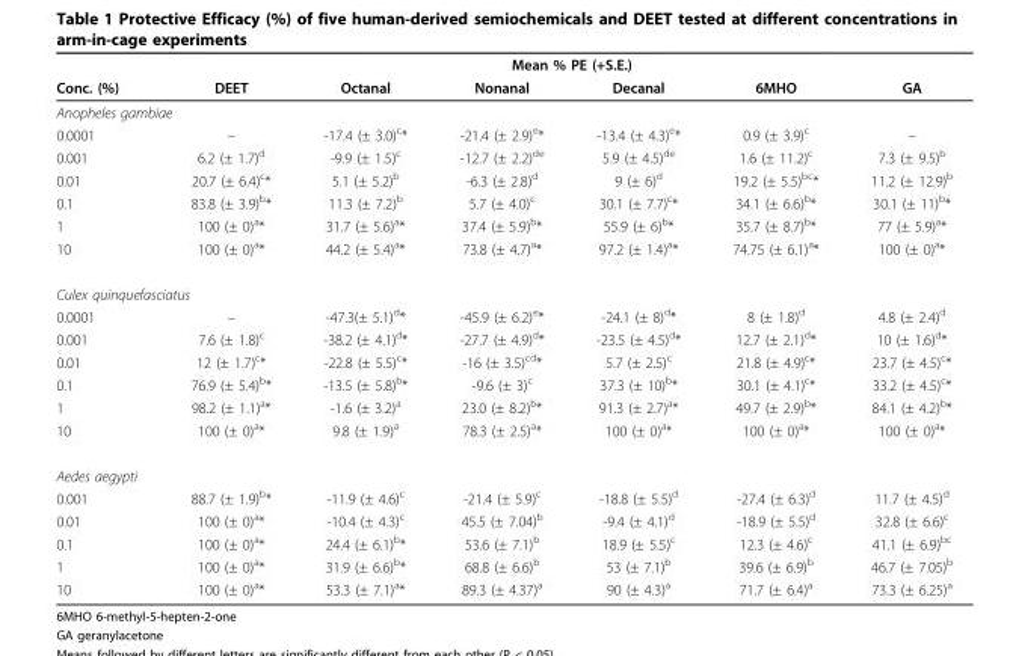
<table><thead><tr><td rowspan="2">Conc. (%)</td><td colspan="6">Mean % PE (+S.E.)</td></tr><tr><td>DEET</td><td>Octanal</td><td>Nonanal</td><td>Decanal</td><td>6MHO</td><td>GA</td></tr></thead><tbody><tr><td colspan="7">Anopheles gambiae</td></tr><tr><td>0.0001</td><td>–</td><td>-17.4 (± 3.0)<sup>c</sup>*</td><td>-21.4 (± 2.9)<sup>e</sup>*</td><td>-13.4 (± 4.3)<sup>e</sup>*</td><td>0.9 (± 3.9)<sup>c</sup></td><td>–</td></tr><tr><td>0.001</td><td>6.2 (± 1.7)<sup>d</sup></td><td>-9.9 (± 1.5)<sup>c</sup></td><td>-12.7 (± 2.2)<sup>de</sup></td><td>5.9 (± 4.5)<sup>de</sup></td><td>1.6 (± 11.2)<sup>c</sup></td><td>7.3 (± 9.5)<sup>b</sup></td></tr><tr><td>0.01</td><td>20.7 (± 6.4)<sup>c</sup>*</td><td>5.1 (± 5.2)<sup>b</sup></td><td>-6.3 (± 2.8)<sup>d</sup></td><td>9 (± 6)<sup>d</sup></td><td>19.2 (± 5.5)<sup>bc</sup>*</td><td>11.2 (± 12.9)<sup>b</sup></td></tr><tr><td>0.1</td><td>83.8 (± 3.9)<sup>b</sup>*</td><td>11.3 (± 7.2)<sup>b</sup></td><td>5.7 (± 4.0)<sup>c</sup></td><td>30.1 (± 7.7)<sup>c</sup>*</td><td>34.1 (± 6.6)<sup>b</sup>*</td><td>30.1 (± 11)<sup>b</sup>*</td></tr><tr><td>1</td><td>100 (± 0)<sup>a</sup>*</td><td>31.7 (± 5.6)<sup>a</sup>*</td><td>37.4 (± 5.9)<sup>b</sup>*</td><td>55.9 (± 6)<sup>b</sup>*</td><td>35.7 (± 8.7)<sup>b</sup>*</td><td>77 (± 5.9)<sup>a</sup>*</td></tr><tr><td>10</td><td>100 (± 0)<sup>a</sup>*</td><td>44.2 (± 5.4)<sup>a</sup>*</td><td>73.8 (± 4.7)<sup>a</sup>*</td><td>97.2 (± 1.4)<sup>a</sup>*</td><td>74.75 (± 6.1)<sup>a</sup>*</td><td>100 (± 0)<sup>a</sup>*</td></tr><tr><td colspan="7">Culex quinquefasciatus</td></tr><tr><td>0.0001</td><td>–</td><td>-47.3(± 5.1)<sup>d</sup>*</td><td>-45.9 (± 6.2)<sup>e</sup>*</td><td>-24.1 (± 8)<sup>d</sup>*</td><td>8 (± 1.8)<sup>d</sup></td><td>4.8 (± 2.4)<sup>d</sup></td></tr><tr><td>0.001</td><td>7.6 (± 1.8)<sup>c</sup></td><td>-38.2 (± 4.1)<sup>d</sup>*</td><td>-27.7 (± 4.9)<sup>d</sup>*</td><td>-23.5 (± 4.5)<sup>d</sup>*</td><td>12.7 (± 2.1)<sup>d</sup>*</td><td>10 (± 1.6)<sup>d</sup>*</td></tr><tr><td>0.01</td><td>12 (± 1.7)<sup>c</sup>*</td><td>-22.8 (± 5.5)<sup>c</sup>*</td><td>-16 (± 3.5)<sup>cd</sup>*</td><td>5.7 (± 2.5)<sup>c</sup></td><td>21.8 (± 4.9)<sup>c</sup>*</td><td>23.7 (± 4.5)<sup>c</sup>*</td></tr><tr><td>0.1</td><td>76.9 (± 5.4)<sup>b</sup>*</td><td>-13.5 (± 5.8)<sup>b</sup>*</td><td>-9.6 (± 3)<sup>c</sup></td><td>37.3 (± 10)<sup>b</sup>*</td><td>30.1 (± 4.1)<sup>c</sup>*</td><td>33.2 (± 4.5)<sup>c</sup>*</td></tr><tr><td>1</td><td>98.2 (± 1.1)<sup>a</sup>*</td><td>-1.6 (± 3.2)<sup>a</sup></td><td>23.0 (± 8.2)<sup>b</sup>*</td><td>91.3 (± 2.7)<sup>a</sup>*</td><td>49.7 (± 2.9)<sup>b</sup>*</td><td>84.1 (± 4.2)<sup>b</sup>*</td></tr><tr><td>10</td><td>100 (± 0)<sup>a</sup>*</td><td>9.8 (± 1.9)<sup>a</sup></td><td>78.3 (± 2.5)<sup>a</sup>*</td><td>100 (± 0)<sup>a</sup>*</td><td>100 (± 0)<sup>a</sup>*</td><td>100 (± 0)<sup>a</sup>*</td></tr><tr><td colspan="7">Aedes aegypti</td></tr><tr><td>0.001</td><td>88.7 (± 1.9)<sup>b</sup>*</td><td>-11.9 (± 4.6)<sup>c</sup></td><td>-21.4 (± 5.9)<sup>c</sup></td><td>-18.8 (± 5.5)<sup>d</sup></td><td>-27.4 (± 6.3)<sup>d</sup></td><td>11.7 (± 4.5)<sup>d</sup></td></tr><tr><td>0.01</td><td>100 (± 0)<sup>a</sup>*</td><td>-10.4 (± 4.3)<sup>c</sup></td><td>45.5 (± 7.04)<sup>b</sup></td><td>-9.4 (± 4.1)<sup>d</sup></td><td>-18.9 (± 5.5)<sup>d</sup></td><td>32.8 (± 6.6)<sup>c</sup></td></tr><tr><td>0.1</td><td>100 (± 0)<sup>a</sup>*</td><td>24.4 (± 6.1)<sup>b</sup>*</td><td>53.6 (± 7.1)<sup>b</sup></td><td>18.9 (± 5.5)<sup>c</sup></td><td>12.3 (± 4.6)<sup>c</sup></td><td>41.1 (± 6.9)<sup>bc</sup></td></tr><tr><td>1</td><td>100 (± 0)<sup>a</sup>*</td><td>31.9 (± 6.6)<sup>b</sup>*</td><td>68.8 (± 6.6)<sup>b</sup></td><td>53 (± 7.1)<sup>b</sup></td><td>39.6 (± 6.9)<sup>b</sup></td><td>46.7 (± 7.05)<sup>b</sup></td></tr><tr><td>10</td><td>100 (± 0)<sup>a</sup>*</td><td>53.3 (± 7.1)<sup>a</sup>*</td><td>89.3 (± 4.37)<sup>a</sup></td><td>90 (± 4.3)<sup>a</sup></td><td>71.7 (± 6.4)<sup>a</sup></td><td>73.3 (± 6.25)<sup>a</sup></td></tr></tbody></table>